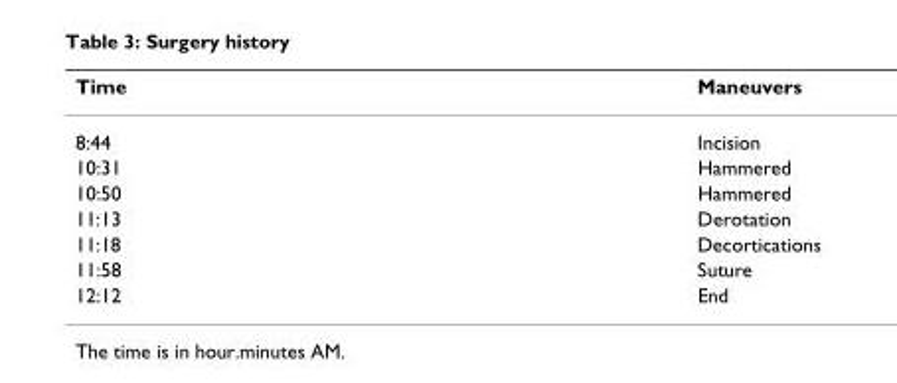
<table><thead><tr><td>Time</td><td>Maneuvers</td></tr></thead><tbody><tr><td>8:44</td><td>Incision</td></tr><tr><td>10:31</td><td>Hammered</td></tr><tr><td>10:50</td><td>Hammered</td></tr><tr><td>11:13</td><td>Derotation</td></tr><tr><td>11:18</td><td>Decortications</td></tr><tr><td>11:58</td><td>Suture</td></tr><tr><td>12:12</td><td>End</td></tr></tbody></table>